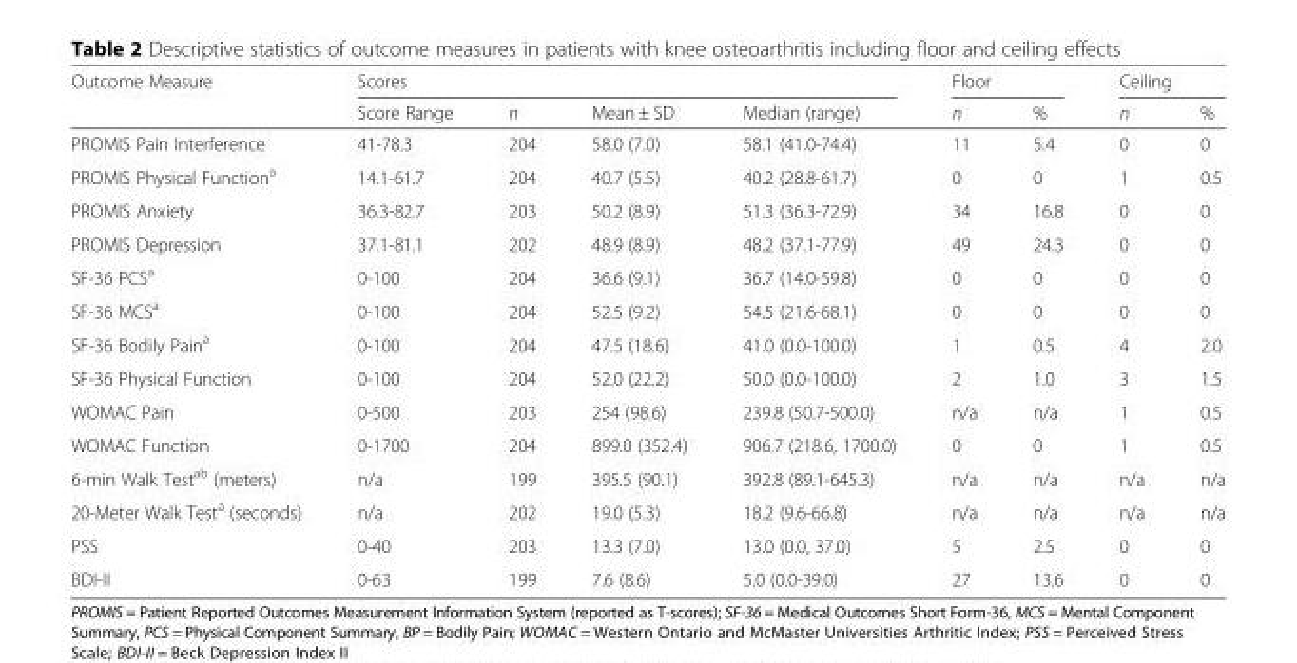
<table><thead><tr><td rowspan="2">Outcome Measure</td><td colspan="4">Scores</td><td colspan="2">Floor</td><td colspan="2">Ceiling</td></tr><tr><td>Score Range</td><td>n</td><td>Mean ± SD</td><td>Median (range)</td><td>n</td><td>%</td><td>n</td><td>%</td></tr></thead><tbody><tr><td>PROMIS Pain Interference</td><td>41-78.3</td><td>204</td><td>58.0 (7.0)</td><td>58.1 (41.0-74.4)</td><td>11</td><td>5.4</td><td>0</td><td>0</td></tr><tr><td>PROMIS Physical Function<sup>a</sup></td><td>14.1-61.7</td><td>204</td><td>40.7 (5.5)</td><td>40.2 (28.8-61.7)</td><td>0</td><td>0</td><td>1</td><td>0.5</td></tr><tr><td>PROMIS Anxiety</td><td>36.3-82.7</td><td>203</td><td>50.2 (8.9)</td><td>51.3 (36.3-72.9)</td><td>34</td><td>16.8</td><td>0</td><td>0</td></tr><tr><td>PROMIS Depression</td><td>37.1-81.1</td><td>202</td><td>48.9 (8.9)</td><td>48.2 (37.1-77.9)</td><td>49</td><td>24.3</td><td>0</td><td>0</td></tr><tr><td>SF-36 PCS<sup>a</sup></td><td>0-100</td><td>204</td><td>36.6 (9.1)</td><td>36.7 (14.0-59.8)</td><td>0</td><td>0</td><td>0</td><td>0</td></tr><tr><td>SF-36 MCS<sup>a</sup></td><td>0-100</td><td>204</td><td>52.5 (9.2)</td><td>54.5 (21.6-68.1)</td><td>0</td><td>0</td><td>0</td><td>0</td></tr><tr><td>SF-36 Bodily Pain<sup>a</sup></td><td>0-100</td><td>204</td><td>47.5 (18.6)</td><td>41.0 (0.0-100.0)</td><td>1</td><td>0.5</td><td>4</td><td>2.0</td></tr><tr><td>SF-36 Physical Function</td><td>0-100</td><td>204</td><td>52.0 (22.2)</td><td>50.0 (0.0-100.0)</td><td>2</td><td>1.0</td><td>3</td><td>1.5</td></tr><tr><td>WOMAC Pain</td><td>0-500</td><td>203</td><td>254 (98.6)</td><td>239.8 (50.7-500.0)</td><td>n/a</td><td>n/a</td><td>1</td><td>0.5</td></tr><tr><td>WOMAC Function</td><td>0-1700</td><td>204</td><td>899.0 (352.4)</td><td>906.7 (218.6, 1700.0)</td><td>0</td><td>0</td><td>1</td><td>0.5</td></tr><tr><td>6-min Walk Test<sup>ab</sup> (meters)</td><td>n/a</td><td>199</td><td>395.5 (90.1)</td><td>392.8 (89.1-645.3)</td><td>n/a</td><td>n/a</td><td>n/a</td><td>n/a</td></tr><tr><td>20-Meter Walk Test<sup>a</sup> (seconds)</td><td>n/a</td><td>202</td><td>19.0 (5.3)</td><td>18.2 (9.6-66.8)</td><td>n/a</td><td>n/a</td><td>n/a</td><td>n/a</td></tr><tr><td>PSS</td><td>0-40</td><td>203</td><td>13.3 (7.0)</td><td>13.0 (0.0, 37.0)</td><td>5</td><td>2.5</td><td>0</td><td>0</td></tr><tr><td>BDI-II</td><td>0-63</td><td>199</td><td>7.6 (8.6)</td><td>5.0 (0.0-39.0)</td><td>27</td><td>13.6</td><td>0</td><td>0</td></tr></tbody></table>